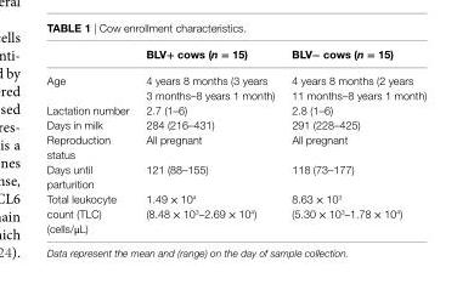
<table><thead><tr><td></td><td>BlV+ cows (n = 15)</td><td>BlV− cows (n = 15)</td></tr></thead><tbody><tr><td>Age</td><td>4 years 8 months (3 years 3 months–8 years 1 month)</td><td>4 years 8 months (2 years 11 months–8 years 1 month)</td></tr><tr><td>Lactation number</td><td>2.7 (1–6)</td><td>2.8 (1–6)</td></tr><tr><td>Days in milk</td><td>284 (216–431)</td><td>291 (228–425)</td></tr><tr><td>Reproduction status</td><td>All pregnant</td><td>All pregnant</td></tr><tr><td>Days until parturition</td><td>121 (88–155)</td><td>118 (73–177)</td></tr><tr><td>Total leukocyte count (TLC) (cells/μL)</td><td>1.49 × 10<sup>4</sup> (8.48 × 10<sup>3</sup>–2.69 × 10<sup>4</sup>)</td><td>8.63 × 10<sup>3</sup> (5.30 × 10<sup>3</sup>–1.78 × 10<sup>4</sup>)</td></tr></tbody></table>